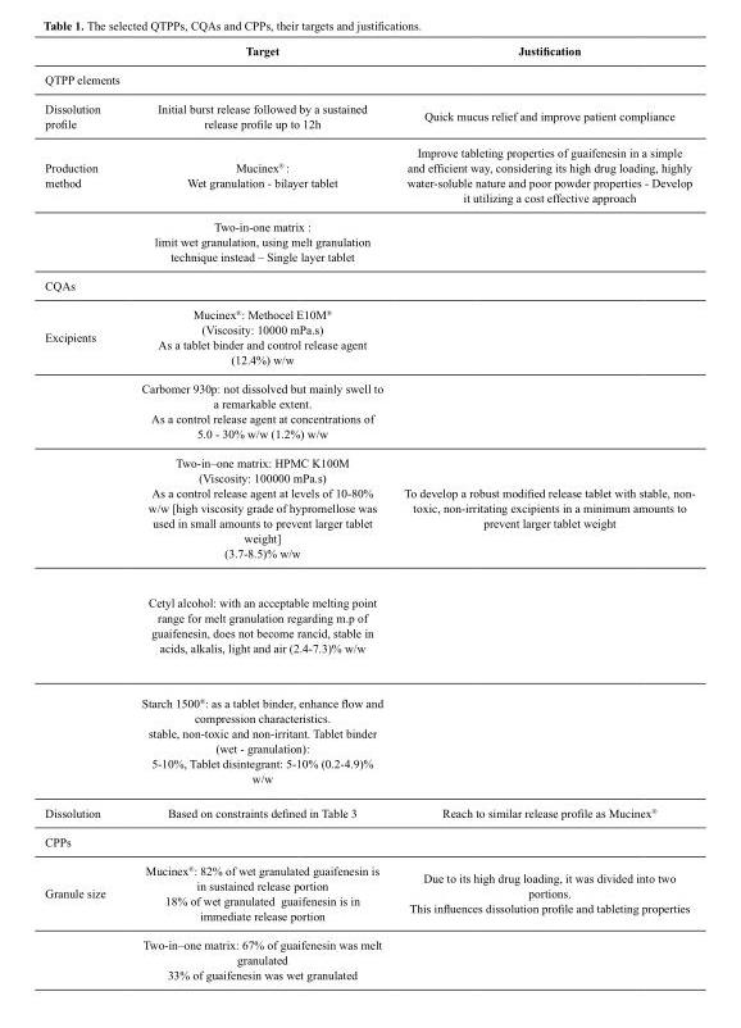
<table><thead><tr><td colspan="2">Target</td><td>Justification</td></tr><tr><td colspan="3">QTPP elements</td></tr><tr><td>Dissolution profile</td><td>Initial burst release followed by a sustained release profile up to 12h</td><td>Quick mucus relief and improve patient compliance</td></tr></thead><tbody><tr><td rowspan="2">Production method</td><td>Mucinex<sup>®</sup> : Wet granulation - bilayer tablet</td><td>Improve tableting properties of guaifenesin in a simple and efficient way, considering its high drug loading, highly water-soluble nature and poor powder properties - Develop it utilizing a cost effective approach</td></tr><tr><td>Two-in-one matrix : limit wet granulation, using melt granulation technique instead – Single layer tablet</td><td></td></tr><tr><td colspan="3">CQAs</td></tr><tr><td rowspan="5">Excipients</td><td>Mucinex<sup>®</sup>: Methocel E10M<sup>®</sup> (Viscosity: 10000 mPa.s) As a tablet binder and control release agent (12.4%) w/w</td><td></td></tr><tr><td>Carbomer 930p: not dissolved but mainly swell to a remarkable extent. As a control release agent at concentrations of 5.0 - 30% w/w (1.2%) w/w</td><td></td></tr><tr><td>Two-in–one matrix: HPMC K100M (Viscosity: 100000 mPa.s) As a control release agent at levels of 10-80% w/w [high viscosity grade of hypromellose was used in small amounts to prevent larger tablet weight] (3.7-8.5)% w/w</td><td>To develop a robust modified release tablet with stable, non- toxic, non-irritating excipients in a minimum amounts to prevent larger tablet weight</td></tr><tr><td>Cetyl alcohol: with an acceptable melting point range for melt granulation regarding m.p of guaifenesin, does not become rancid, stable in acids, alkalis, light and air (2.4-7.3)% w/w</td><td></td></tr><tr><td>Starch 1500®: as a tablet binder, enhance flow and compression characteristics. stable, non-toxic and non-irritant. Tablet binder (wet - granulation): 5-10%, Tablet disintegrant: 5-10% (0.2-4.9)% w/w</td><td></td></tr><tr><td>Dissolution</td><td>Based on constraints defined in Table 3</td><td>Reach to similar release profile as Mucinex<sup>®</sup></td></tr><tr><td colspan="3">CPPs</td></tr><tr><td rowspan="2">Granule size</td><td>Mucinex<sup>®</sup>: 82% of wet granulated guaifenesin is in sustained release portion 18% of wet granulated guaifenesin is in immediate release portion</td><td>Due to its high drug loading, it was divided into two portions. This influences dissolution profile and tableting properties</td></tr><tr><td>Two-in–one matrix: 67% of guaifenesin was melt granulated 33% of guaifenesin was wet granulated</td><td></td></tr></tbody></table>